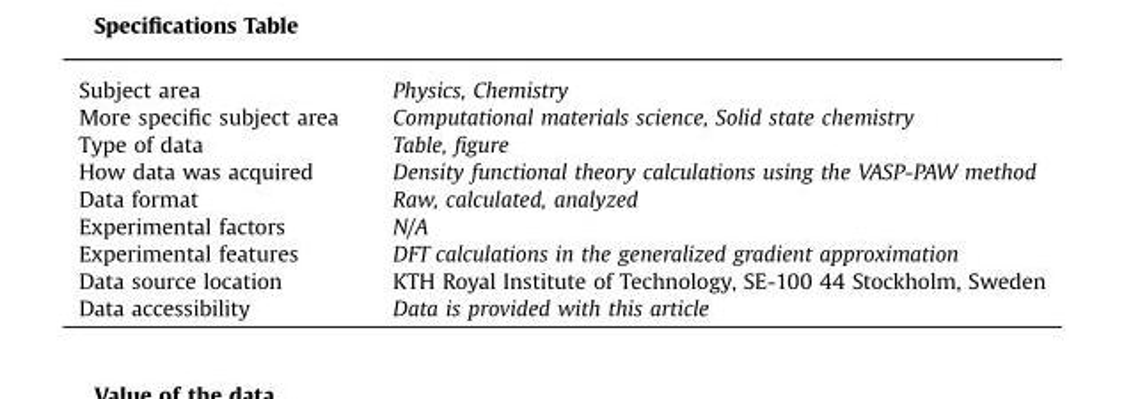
<table><tbody><tr><td>Subject area</td><td>Physics, Chemistry</td></tr><tr><td>More specific subject area</td><td>Computational materials science, Solid state chemistry</td></tr><tr><td>Type of data</td><td>Table, figure</td></tr><tr><td>How data was acquired</td><td>Density functional theory calculations using the VASP-PAW method</td></tr><tr><td>Data format</td><td>Raw, calculated, analyzed</td></tr><tr><td>Experimental factors</td><td>N/A</td></tr><tr><td>Experimental features</td><td>DFT calculations in the generalized gradient approximation</td></tr><tr><td>Data source location</td><td>KTH Royal Institute of Technology, SE-100 44 Stockholm, Sweden</td></tr><tr><td>Data accessibility</td><td>Data is provided with this article</td></tr></tbody></table>